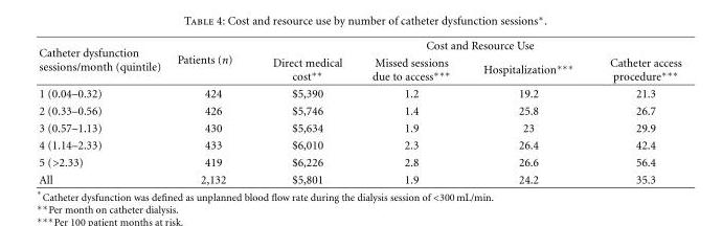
<table><thead><tr><td rowspan="2">Catheter dysfunction sessions/month (quintile)</td><td rowspan="2">Patients (n)</td><td colspan="4">Cost and Resource Use</td></tr><tr><td>Direct medical cost∗∗</td><td>Missed sessions due to access∗∗∗</td><td>Hospitalization∗∗∗</td><td>Catheter access procedure∗∗∗</td></tr></thead><tbody><tr><td>1 (0.04–0.32)</td><td>424</td><td>$5,390</td><td>1.2</td><td>19.2</td><td>21.3</td></tr><tr><td>2 (0.33–0.56)</td><td>426</td><td>$5,746</td><td>1.4</td><td>25.8</td><td>26.7</td></tr><tr><td>3 (0.57–1.13)</td><td>430</td><td>$5,634</td><td>1.9</td><td>23</td><td>29.9</td></tr><tr><td>4 (1.14–2.33)</td><td>433</td><td>$6,010</td><td>2.3</td><td>26.4</td><td>42.4</td></tr><tr><td>5 (&gt;2.33)</td><td>419</td><td>$6,226</td><td>2.8</td><td>26.6</td><td>56.4</td></tr><tr><td>All</td><td>2,132</td><td>$5,801</td><td>1.9</td><td>24.2</td><td>35.3</td></tr></tbody></table>